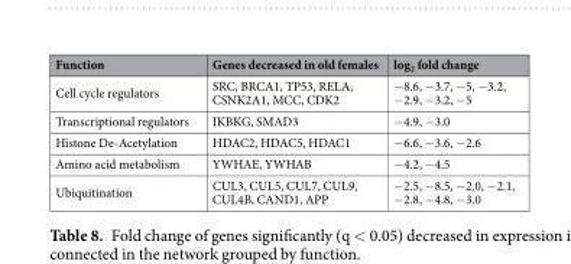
<table><thead><tr><td>Function</td><td>Genes decreased in old females</td><td>log<sub>2</sub> fold change</td></tr></thead><tbody><tr><td>Cell cycle regulators</td><td>SRC, BRCA1, TP53, RELA, CSNK2A1, MCC, CDK2</td><td>−8.6, −3.7, −5, −3.2, −2.9, −3.2, −5</td></tr><tr><td>Transcriptional regulators</td><td>IKBKG, SMAD3</td><td>−4.9, −3.0</td></tr><tr><td>Histone De-Acetylation</td><td>HDAC2, HDAC5, HDAC1</td><td>−6.6, −3.6, −2.6</td></tr><tr><td>Amino acid metabolism</td><td>YWHAE, YWHAB</td><td>−4.2, −4.5</td></tr><tr><td>Ubiquitination</td><td>CUL3, CUL5, CUL7, CUL9, CUL4B, CAND1, APP</td><td>−2.5, −8.5, −2.0, −2.1, −2.8, −4.8, −3.0</td></tr></tbody></table>